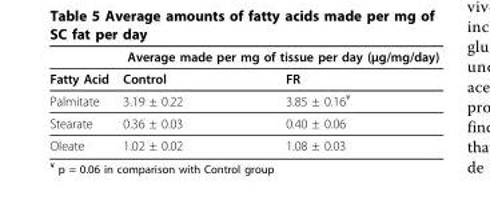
<table><thead><tr><td rowspan="2">Fatty Acid</td><td colspan="2">Average made per mg of tissue per day (μg/mg/day)</td></tr><tr><td>Control</td><td>FR</td></tr></thead><tbody><tr><td>Palmitate</td><td>3.19 ± 0.22</td><td>3.85 ± 0.16<sup>¥</sup></td></tr><tr><td>Stearate</td><td>0.36 ± 0.03</td><td>0.40 ± 0.06</td></tr><tr><td>Oleate</td><td>1.02 ± 0.02</td><td>1.08 ± 0.03</td></tr></tbody></table>